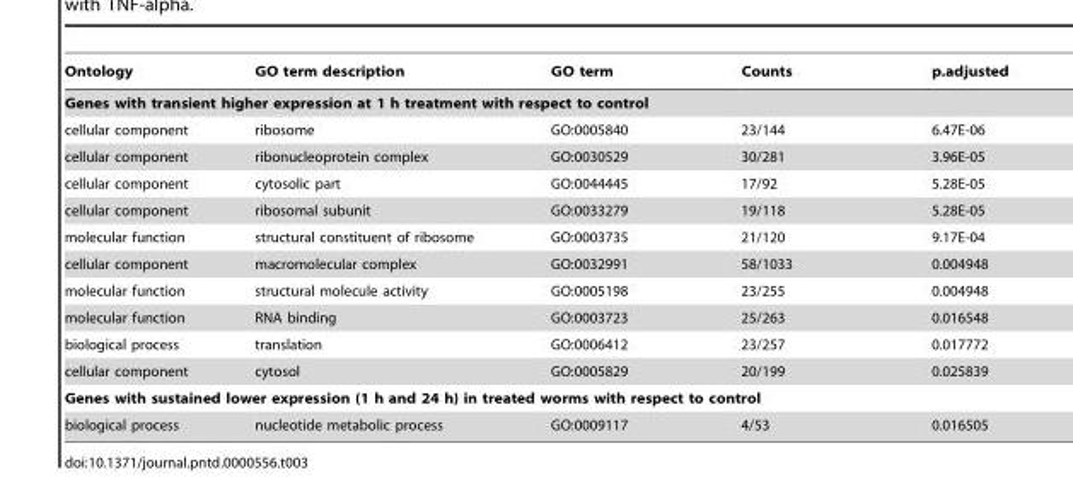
<table><thead><tr><td>Ontology</td><td>GO term description</td><td>GO term</td><td>Counts</td><td>p.adjusted</td></tr></thead><tbody><tr><td colspan="5">Genes with transient higher expression at 1 h treatment with respect to control</td></tr><tr><td>cellular component</td><td>ribosome</td><td>GO:0005840</td><td>23/144</td><td>6.47E-06</td></tr><tr><td>cellular component</td><td>ribonucleoprotein complex</td><td>GO:0030529</td><td>30/281</td><td>3.96E-05</td></tr><tr><td>cellular component</td><td>cytosolic part</td><td>GO:0044445</td><td>17/92</td><td>5.28E-05</td></tr><tr><td>cellular component</td><td>ribosomal subunit</td><td>GO:0033279</td><td>19/118</td><td>5.28E-05</td></tr><tr><td>molecular function</td><td>structural constituent of ribosome</td><td>GO:0003735</td><td>21/120</td><td>9.17E-04</td></tr><tr><td>cellular component</td><td>macromolecular complex</td><td>GO:0032991</td><td>58/1033</td><td>0.004948</td></tr><tr><td>molecular function</td><td>structural molecule activity</td><td>GO:0005198</td><td>23/255</td><td>0.004948</td></tr><tr><td>molecular function</td><td>RNA binding</td><td>GO:0003723</td><td>25/263</td><td>0.016548</td></tr><tr><td>biological process</td><td>translation</td><td>GO:0006412</td><td>23/257</td><td>0.017772</td></tr><tr><td>cellular component</td><td>cytosol</td><td>GO:0005829</td><td>20/199</td><td>0.025839</td></tr><tr><td colspan="5">Genes with sustained lower expression (1 h and 24 h) in treated worms with respect to control</td></tr><tr><td>biological process</td><td>nucleotide metabolic process</td><td>GO:0009117</td><td>4/53</td><td>0.016505</td></tr></tbody></table>